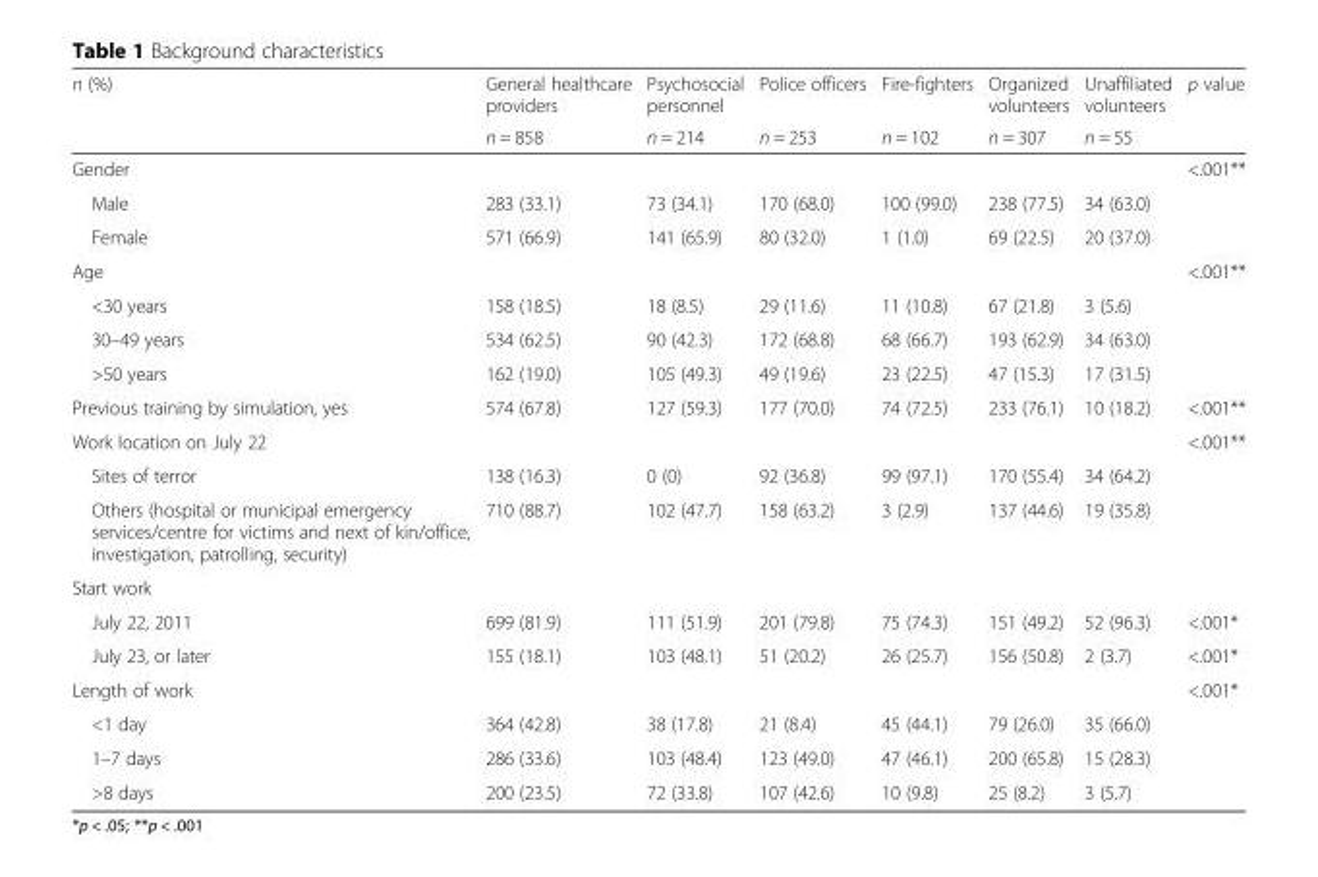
<table><thead><tr><td rowspan="2">n (%)</td><td rowspan="2">General healthcare providers n = 858</td><td rowspan="2">Psychosocial personnel n = 214</td><td rowspan="2">Police officers n = 253</td><td rowspan="2">Fire-fighters n = 102</td><td rowspan="2">Organized volunteers n = 307</td><td rowspan="2">Unaffiliated volunteers n = 55</td><td rowspan="2">p value</td></tr><tr></tr></thead><tbody><tr><td colspan="7">Gender</td><td>&lt;.001**</td></tr><tr><td>Male</td><td>283 (33.1)</td><td>73 (34.1)</td><td>170 (68.0)</td><td>100 (99.0)</td><td>238 (77.5)</td><td>34 (63.0)</td><td></td></tr><tr><td>Female</td><td>571 (66.9)</td><td>141 (65.9)</td><td>80 (32.0)</td><td>1 (1.0)</td><td>69 (22.5)</td><td>20 (37.0)</td><td></td></tr><tr><td colspan="7">Age</td><td>&lt;.001**</td></tr><tr><td>&lt;30 years</td><td>158 (18.5)</td><td>18 (8.5)</td><td>29 (11.6)</td><td>11 (10.8)</td><td>67 (21.8)</td><td>3 (5.6)</td><td></td></tr><tr><td>30–49 years</td><td>534 (62.5)</td><td>90 (42.3)</td><td>172 (68.8)</td><td>68 (66.7)</td><td>193 (62.9)</td><td>34 (63.0)</td><td></td></tr><tr><td>&gt;50 years</td><td>162 (19.0)</td><td>105 (49.3)</td><td>49 (19.6)</td><td>23 (22.5)</td><td>47 (15.3)</td><td>17 (31.5)</td><td></td></tr><tr><td>Previous training by simulation, yes</td><td>574 (67.8)</td><td>127 (59.3)</td><td>177 (70.0)</td><td>74 (72.5)</td><td>233 (76.1)</td><td>10 (18.2)</td><td>&lt;.001**</td></tr><tr><td colspan="7">Work location on July 22</td><td>&lt;.001**</td></tr><tr><td>Sites of terror</td><td>138 (16.3)</td><td>0 (0)</td><td>92 (36.8)</td><td>99 (97.1)</td><td>170 (55.4)</td><td>34 (64.2)</td><td></td></tr><tr><td>Others (hospital or municipal emergency services/centre for victims and next of kin/office, investigation, patrolling, security)</td><td>710 (88.7)</td><td>102 (47.7)</td><td>158 (63.2)</td><td>3 (2.9)</td><td>137 (44.6)</td><td>19 (35.8)</td><td></td></tr><tr><td colspan="8">Start work</td></tr><tr><td>July 22, 2011</td><td>699 (81.9)</td><td>111 (51.9)</td><td>201 (79.8)</td><td>75 (74.3)</td><td>151 (49.2)</td><td>52 (96.3)</td><td>&lt;.001*</td></tr><tr><td>July 23, or later</td><td>155 (18.1)</td><td>103 (48.1)</td><td>51 (20.2)</td><td>26 (25.7)</td><td>156 (50.8)</td><td>2 (3.7)</td><td>&lt;.001*</td></tr><tr><td colspan="7">Length of work</td><td>&lt;.001*</td></tr><tr><td>&lt;1 day</td><td>364 (42.8)</td><td>38 (17.8)</td><td>21 (8.4)</td><td>45 (44.1)</td><td>79 (26.0)</td><td>35 (66.0)</td><td></td></tr><tr><td>1–7 days</td><td>286 (33.6)</td><td>103 (48.4)</td><td>123 (49.0)</td><td>47 (46.1)</td><td>200 (65.8)</td><td>15 (28.3)</td><td></td></tr><tr><td>&gt;8 days</td><td>200 (23.5)</td><td>72 (33.8)</td><td>107 (42.6)</td><td>10 (9.8)</td><td>25 (8.2)</td><td>3 (5.7)</td><td></td></tr></tbody></table>